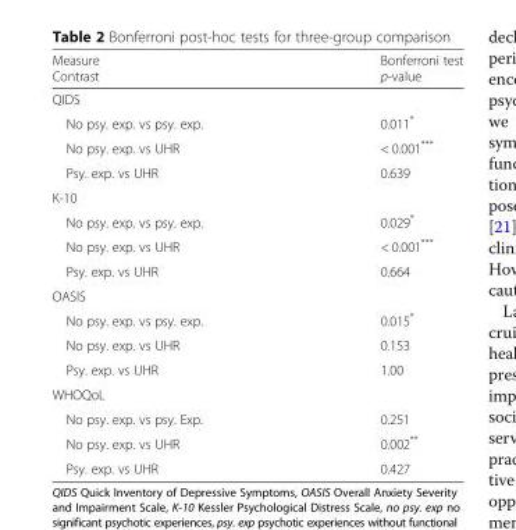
<table><thead><tr><td>Measure Contrast</td><td>Bonferroni test p-value</td></tr></thead><tbody><tr><td colspan="2">QIDS</td></tr><tr><td>No psy. exp. vs psy. exp.</td><td>0.011*</td></tr><tr><td>No psy. exp. vs UHR</td><td>&lt; 0.001***</td></tr><tr><td>Psy. exp. vs UHR</td><td>0.639</td></tr><tr><td colspan="2">K-10</td></tr><tr><td>No psy. exp. vs psy. exp.</td><td>0.029*</td></tr><tr><td>No psy. exp. vs UHR</td><td>&lt; 0.001***</td></tr><tr><td>Psy. exp. vs UHR</td><td>0.664</td></tr><tr><td colspan="2">OASIS</td></tr><tr><td>No psy. exp. vs psy. exp.</td><td>0.015*</td></tr><tr><td>No psy. exp. vs UHR</td><td>0.153</td></tr><tr><td>Psy. exp. vs UHR</td><td>1.00</td></tr><tr><td colspan="2">WHOQoL</td></tr><tr><td>No psy. exp. vs psy. Exp.</td><td>0.251</td></tr><tr><td>No psy. exp. vs UHR</td><td>0.002**</td></tr><tr><td>Psy. exp. vs UHR</td><td>0.427</td></tr></tbody></table>